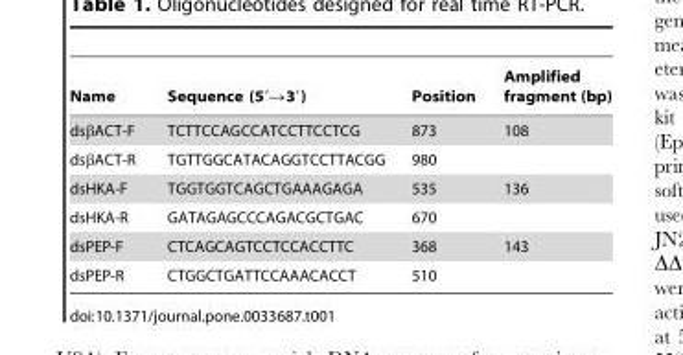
<table><thead><tr><td>Name</td><td>Sequence (5′→3′)</td><td>Position</td><td>Amplified fragment (bp)</td></tr></thead><tbody><tr><td>dsβACT-F</td><td>TCTTCCAGCCATCCTTCCTCG</td><td>873</td><td>108</td></tr><tr><td>dsβACT-R</td><td>TGTTGGCATACAGGTCCTTACGG</td><td>980</td><td></td></tr><tr><td>dsHKA-F</td><td>TGGTGGTCAGCTGAAAGAGA</td><td>535</td><td>136</td></tr><tr><td>dsHKA-R</td><td>GATAGAGCCCAGACGCTGAC</td><td>670</td><td></td></tr><tr><td>dsPEP-F</td><td>CTCAGCAGTCCTCCACCTTC</td><td>368</td><td>143</td></tr><tr><td>dsPEP-R</td><td>CTGGCTGATTCCAAACACCT</td><td>510</td><td></td></tr></tbody></table>